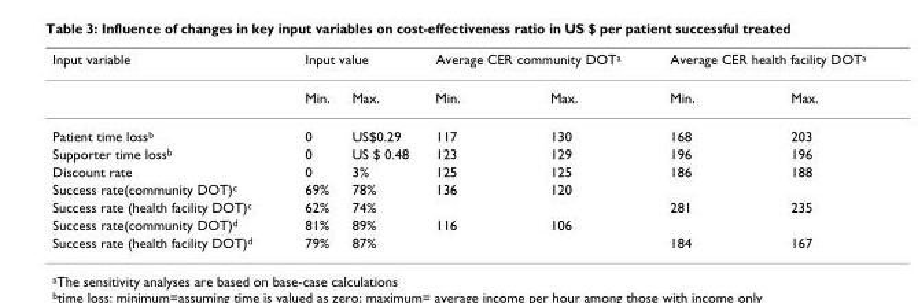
<table><thead><tr><td rowspan="2">Input variable</td><td colspan="2">Input value</td><td colspan="2">Average CER community DOT<sup>a</sup></td><td colspan="2">Average CER health facility DOT<sup>a</sup></td></tr><tr><td>Min.</td><td>Max.</td><td>Min.</td><td>Max.</td><td>Min.</td><td>Max.</td></tr></thead><tbody><tr><td>Patient time loss<sup>b</sup></td><td>0</td><td>US$0.29</td><td>117</td><td>130</td><td>168</td><td>203</td></tr><tr><td>Supporter time loss<sup>b</sup></td><td>0</td><td>US $ 0.48</td><td>123</td><td>129</td><td>196</td><td>196</td></tr><tr><td>Discount rate</td><td>0</td><td>3%</td><td>125</td><td>125</td><td>186</td><td>188</td></tr><tr><td>Success rate(community DOT)<sup>c</sup></td><td>69%</td><td>78%</td><td>136</td><td>120</td><td></td><td></td></tr><tr><td>Success rate (health facility DOT)<sup>c</sup></td><td>62%</td><td>74%</td><td></td><td></td><td>281</td><td>235</td></tr><tr><td>Success rate(community DOT)<sup>d</sup></td><td>81%</td><td>89%</td><td>116</td><td>106</td><td></td><td></td></tr><tr><td>Success rate (health facility DOT)<sup>d</sup></td><td>79%</td><td>87%</td><td></td><td></td><td>184</td><td>167</td></tr></tbody></table>